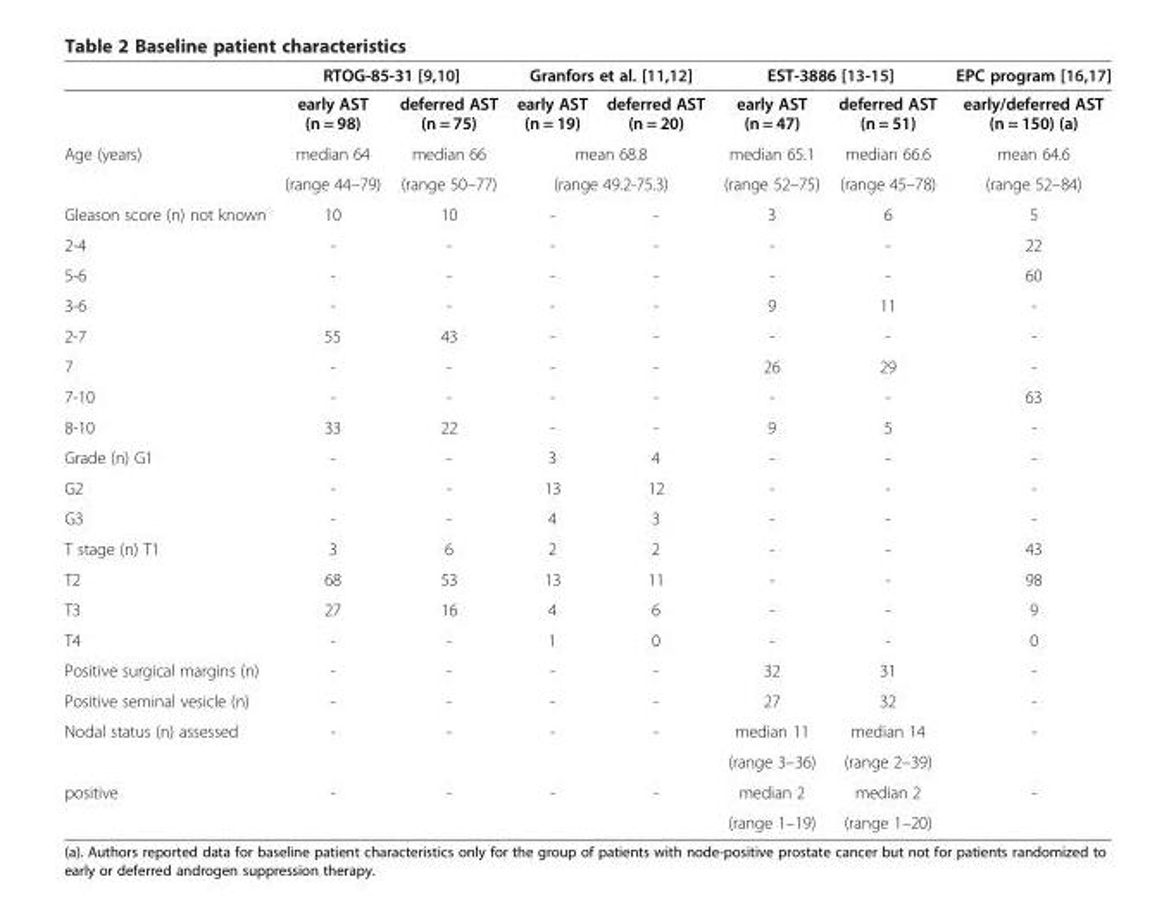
<table><thead><tr><td rowspan="2"></td><td colspan="2">RTOG-85-31 [9,10]</td><td colspan="2">Granfors et al. [11,12]</td><td colspan="2">EST-3886 [13-15]</td><td rowspan="2">EPC program [16,17] early/deferred AST (n = 150) (a)</td></tr><tr><td>early AST (n = 98)</td><td>deferred AST (n = 75)</td><td>early AST (n = 19)</td><td>deferred AST (n = 20)</td><td>early AST (n = 47)</td><td>deferred AST (n = 51)</td></tr></thead><tbody><tr><td rowspan="2">Age (years)</td><td>median 64</td><td>median 66</td><td colspan="2">mean 68.8</td><td>median 65.1</td><td>median 66.6</td><td>mean 64.6</td></tr><tr><td>(range 44–79)</td><td>(range 50–77)</td><td colspan="2">(range 49.2-75.3)</td><td>(range 52–75)</td><td>(range 45–78)</td><td>(range 52–84)</td></tr><tr><td>Gleason score (n) not known</td><td>10</td><td>10</td><td>-</td><td>-</td><td>3</td><td>6</td><td>5</td></tr><tr><td>2-4</td><td>-</td><td>-</td><td>-</td><td>-</td><td>-</td><td>-</td><td>22</td></tr><tr><td>5-6</td><td>-</td><td>-</td><td>-</td><td>-</td><td>-</td><td>-</td><td>60</td></tr><tr><td>3-6</td><td>-</td><td>-</td><td>-</td><td>-</td><td>9</td><td>11</td><td>-</td></tr><tr><td>2-7</td><td>55</td><td>43</td><td>-</td><td>-</td><td>-</td><td>-</td><td>-</td></tr><tr><td>7</td><td>-</td><td>-</td><td>-</td><td>-</td><td>26</td><td>29</td><td>-</td></tr><tr><td>7-10</td><td>-</td><td>-</td><td>-</td><td>-</td><td>-</td><td>-</td><td>63</td></tr><tr><td>8-10</td><td>33</td><td>22</td><td>-</td><td>-</td><td>9</td><td>5</td><td>-</td></tr><tr><td>Grade (n) G1</td><td>-</td><td>-</td><td>3</td><td>4</td><td>-</td><td>-</td><td>-</td></tr><tr><td>G2</td><td>-</td><td>-</td><td>13</td><td>12</td><td>-</td><td>-</td><td>-</td></tr><tr><td>G3</td><td>-</td><td>-</td><td>4</td><td>3</td><td>-</td><td>-</td><td>-</td></tr><tr><td>T stage (n) T1</td><td>3</td><td>6</td><td>2</td><td>2</td><td>-</td><td>-</td><td>43</td></tr><tr><td>T2</td><td>68</td><td>53</td><td>13</td><td>11</td><td>-</td><td>-</td><td>98</td></tr><tr><td>T3</td><td>27</td><td>16</td><td>4</td><td>6</td><td>-</td><td>-</td><td>9</td></tr><tr><td>T4</td><td>-</td><td>-</td><td>1</td><td>0</td><td>-</td><td>-</td><td>0</td></tr><tr><td>Positive surgical margins (n)</td><td>-</td><td>-</td><td>-</td><td>-</td><td>32</td><td>31</td><td>-</td></tr><tr><td>Positive seminal vesicle (n)</td><td>-</td><td>-</td><td>-</td><td>-</td><td>27</td><td>32</td><td>-</td></tr><tr><td rowspan="2">Nodal status (n) assessed</td><td rowspan="2">-</td><td rowspan="2">-</td><td rowspan="2">-</td><td rowspan="2">-</td><td>median 11</td><td>median 14</td><td rowspan="2">-</td></tr><tr><td>(range 3–36)</td><td>(range 2–39)</td></tr><tr><td rowspan="2">positive</td><td>-</td><td>-</td><td>-</td><td>-</td><td>median 2</td><td>median 2</td><td>-</td></tr><tr><td></td><td></td><td></td><td></td><td>(range 1–19)</td><td>(range 1–20)</td><td></td></tr></tbody></table>